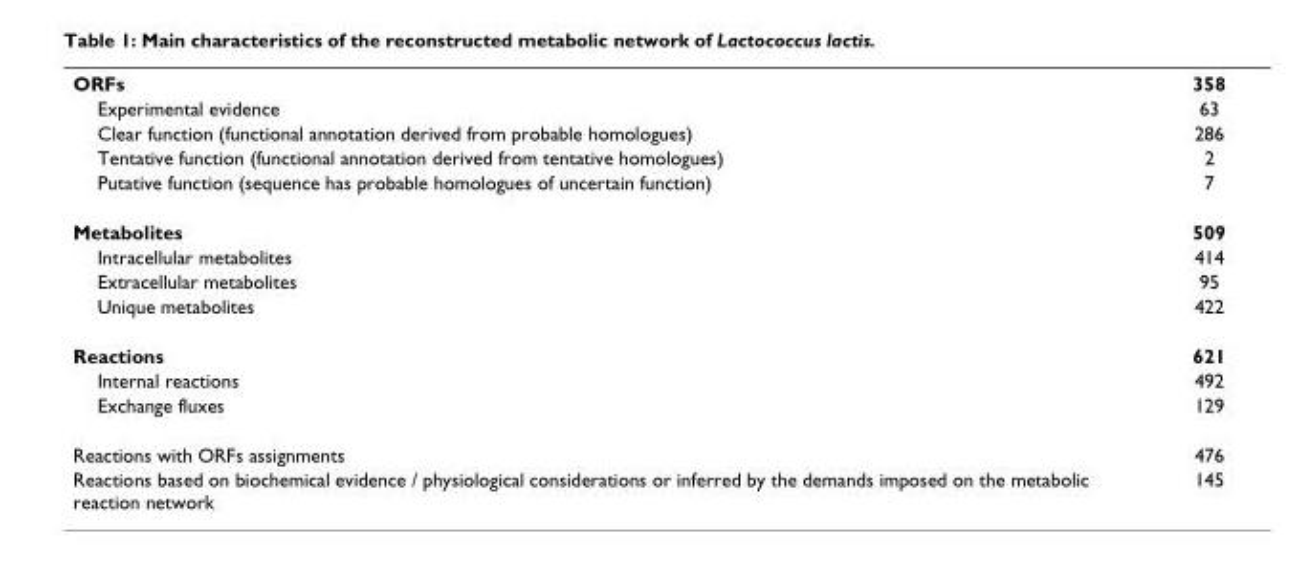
<table><tbody><tr><td>ORFs</td><td>358</td></tr><tr><td>Experimental evidence</td><td>63</td></tr><tr><td>Clear function (functional annotation derived from probable homologues)</td><td>286</td></tr><tr><td>Tentative function (functional annotation derived from tentative homologues)</td><td>2</td></tr><tr><td>Putative function (sequence has probable homologues of uncertain function)</td><td>7</td></tr><tr><td>Metabolites</td><td>509</td></tr><tr><td>Intracellular metabolites</td><td>414</td></tr><tr><td>Extracellular metabolites</td><td>95</td></tr><tr><td>Unique metabolites</td><td>422</td></tr><tr><td>Reactions</td><td>621</td></tr><tr><td>Internal reactions</td><td>492</td></tr><tr><td>Exchange fluxes</td><td>129</td></tr><tr><td>Reactions with ORFs assignments</td><td>476</td></tr><tr><td>Reactions based on biochemical evidence / physiological considerations or inferred by the demands imposed on the metabolic reaction network</td><td>145</td></tr></tbody></table>